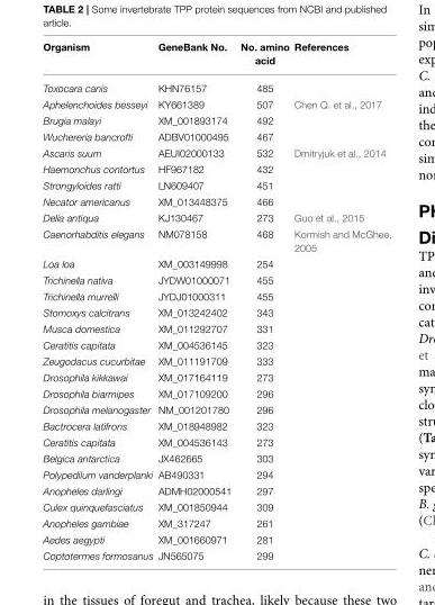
<table><thead><tr><td>Organism</td><td>GeneBank No.</td><td>No. amino acid</td><td>References</td></tr></thead><tbody><tr><td>Toxocara canis</td><td>KHN76157</td><td>485</td><td></td></tr><tr><td>Aphelenchoides besseyi</td><td>KY661389</td><td>507</td><td>Chen Q. et al., 2017</td></tr><tr><td>Brugia malayi</td><td>XM_001893174</td><td>492</td><td></td></tr><tr><td>Wuchereria bancrofti</td><td>ADBV01000495</td><td>467</td><td></td></tr><tr><td>Ascaris suum</td><td>AEUI02000133</td><td>532</td><td>Dmitryjuk et al., 2014</td></tr><tr><td>Haemonchus contortus</td><td>HF967182</td><td>432</td><td></td></tr><tr><td>Strongyloides ratti</td><td>LN609407</td><td>451</td><td></td></tr><tr><td>Necator americanus</td><td>XM_013448375</td><td>466</td><td></td></tr><tr><td>Delia antiqua</td><td>KJ130467</td><td>273</td><td>Guo et al., 2015</td></tr><tr><td>Caenorhabditis elegans</td><td>NM078158</td><td>468</td><td>Kormish and McGhee, 2005</td></tr><tr><td>Loa loa</td><td>XM_003149998</td><td>254</td><td></td></tr><tr><td>Trichinella nativa</td><td>JYDW01000071</td><td>455</td><td></td></tr><tr><td>Trichinella murrelli</td><td>JYDJ01000311</td><td>455</td><td></td></tr><tr><td>Stomoxys calcitrans</td><td>XM_013242402</td><td>343</td><td></td></tr><tr><td>Musca domestica</td><td>XM_011292707</td><td>331</td><td></td></tr><tr><td>Ceratitis capitata</td><td>XM_004536145</td><td>323</td><td></td></tr><tr><td>Zeugodacus cucurbitae</td><td>XM_011191709</td><td>333</td><td></td></tr><tr><td>Drosophila kikkawai</td><td>XM_017164119</td><td>273</td><td></td></tr><tr><td>Drosophila biarmipes</td><td>XM_017109200</td><td>296</td><td></td></tr><tr><td>Drosophila melanogaster</td><td>NM_001201780</td><td>296</td><td></td></tr><tr><td>Bactrocera latifrons</td><td>XM_018948982</td><td>323</td><td></td></tr><tr><td>Ceratitis capitata</td><td>XM_004536143</td><td>273</td><td></td></tr><tr><td>Belgica antarctica</td><td>JX462665</td><td>303</td><td></td></tr><tr><td>Polypedilum vanderplanki</td><td>AB490331</td><td>294</td><td></td></tr><tr><td>Anopheles darlingi</td><td>ADMH02000541</td><td>297</td><td></td></tr><tr><td>Culex quinquefasciatus</td><td>XM_001850944</td><td>309</td><td></td></tr><tr><td>Anopheles gambiae</td><td>XM_317247</td><td>261</td><td></td></tr><tr><td>Aedes aegypti</td><td>XM_001660971</td><td>281</td><td></td></tr><tr><td>Coptotermes formosanus</td><td>JN565075</td><td>299</td><td></td></tr></tbody></table>